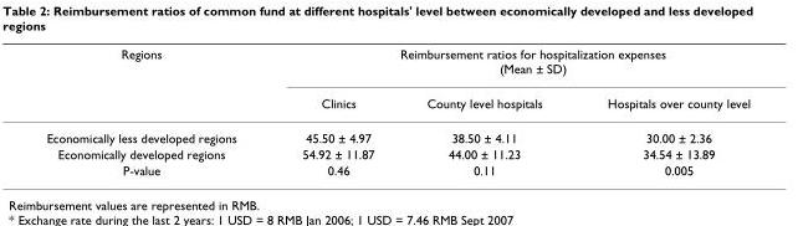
<table><thead><tr><td rowspan="2">Regions</td><td colspan="3">Reimbursement ratios for hospitalization expenses (Mean ± SD)</td></tr><tr><td>Clinics</td><td>County level hospitals</td><td>Hospitals over county level</td></tr></thead><tbody><tr><td>Economically less developed regions</td><td>45.50 ± 4.97</td><td>38.50 ± 4.11</td><td>30.00 ± 2.36</td></tr><tr><td>Economically developed regions</td><td>54.92 ± 11.87</td><td>44.00 ± 11.23</td><td>34.54 ± 13.89</td></tr><tr><td>P-value</td><td>0.46</td><td>0.11</td><td>0.005</td></tr></tbody></table>